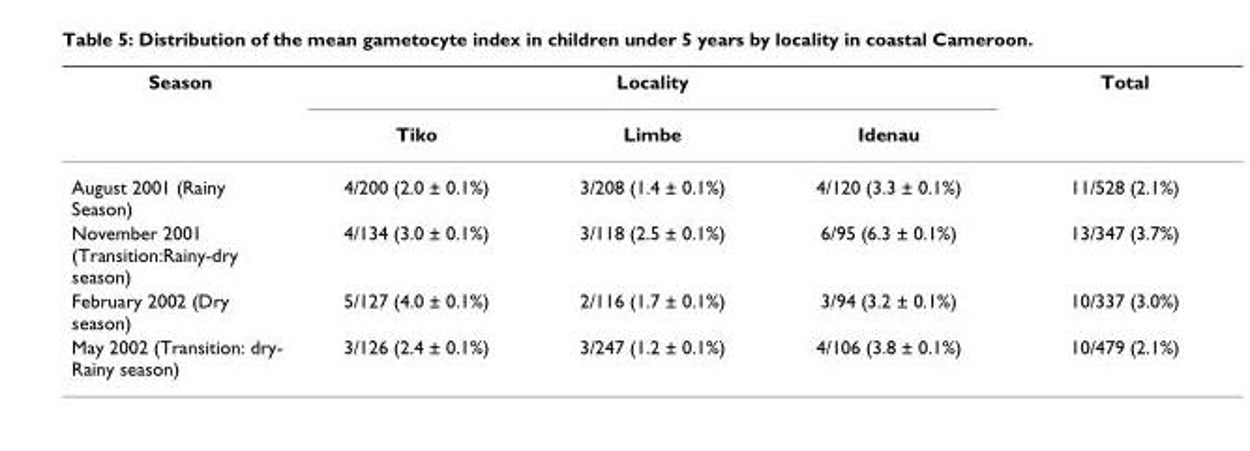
<table><thead><tr><td rowspan="2">Season</td><td colspan="3">Locality</td><td rowspan="2">Total</td></tr><tr><td>Tiko</td><td>Limbe</td><td>Idenau</td></tr></thead><tbody><tr><td>August 2001 (Rainy Season)</td><td>4/200 (2.0 ± 0.1%)</td><td>3/208 (1.4 ± 0.1%)</td><td>4/120 (3.3 ± 0.1%)</td><td>11/528 (2.1%)</td></tr><tr><td>November 2001 (Transition:Rainy-dry season)</td><td>4/134 (3.0 ± 0.1%)</td><td>3/118 (2.5 ± 0.1%)</td><td>6/95 (6.3 ± 0.1%)</td><td>13/347 (3.7%)</td></tr><tr><td>February 2002 (Dry season)</td><td>5/127 (4.0 ± 0.1%)</td><td>2/116 (1.7 ± 0.1%)</td><td>3/94 (3.2 ± 0.1%)</td><td>10/337 (3.0%)</td></tr><tr><td>May 2002 (Transition: dry- Rainy season)</td><td>3/126 (2.4 ± 0.1%)</td><td>3/247 (1.2 ± 0.1%)</td><td>4/106 (3.8 ± 0.1%)</td><td>10/479 (2.1%)</td></tr></tbody></table>